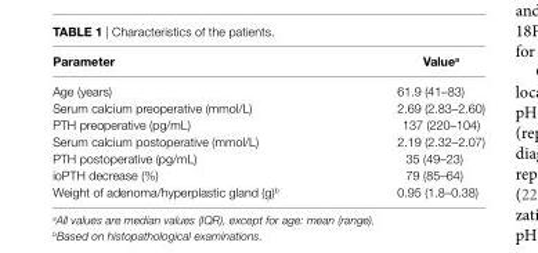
<table><thead><tr><td>Parameter</td><td>Value<sup>a</sup></td></tr></thead><tbody><tr><td>Age (years)</td><td>61.9 (41–83)</td></tr><tr><td>Serum calcium preoperative (mmol/L)</td><td>2.69 (2.83–2.60)</td></tr><tr><td>PTH preoperative (pg/mL)</td><td>137 (220–104)</td></tr><tr><td>Serum calcium postoperative (mmol/L)</td><td>2.19 (2.32–2.07)</td></tr><tr><td>PTH postoperative (pg/mL)</td><td>35 (49–23)</td></tr><tr><td>ioPTH decrease (%)</td><td>79 (85–64)</td></tr><tr><td>Weight of adenoma/hyperplastic gland (g)<sup>b</sup></td><td>0.95 (1.8–0.38)</td></tr></tbody></table>